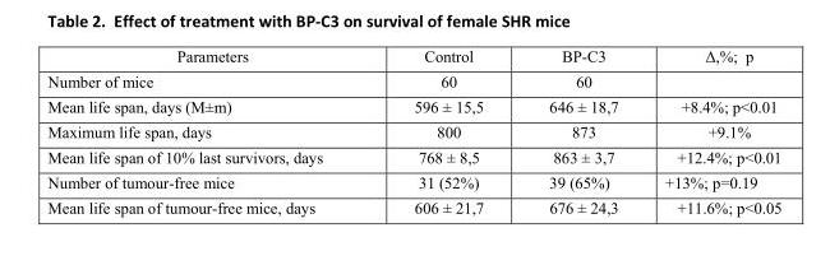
<table><thead><tr><td>Parameters</td><td>Control</td><td>BP-C3</td><td>Δ,%; p</td></tr></thead><tbody><tr><td>Number of mice</td><td>60</td><td>60</td><td></td></tr><tr><td>Mean life span, days (M±m)</td><td>596 ± 15,5</td><td>646 ± 18,7</td><td>+8.4%; p&lt;0.01</td></tr><tr><td>Maximum life span, days</td><td>800</td><td>873</td><td>+9.1%</td></tr><tr><td>Mean life span of 10% last survivors, days</td><td>768 ± 8,5</td><td>863 ± 3,7</td><td>+12.4%; p&lt;0.01</td></tr><tr><td>Number of tumour-free mice</td><td>31 (52%)</td><td>39 (65%)</td><td>+13%; p=0.19</td></tr><tr><td>Mean life span of tumour-free mice, days</td><td>606 ± 21,7</td><td>676 ± 24,3</td><td>+11.6%; p&lt;0.05</td></tr></tbody></table>